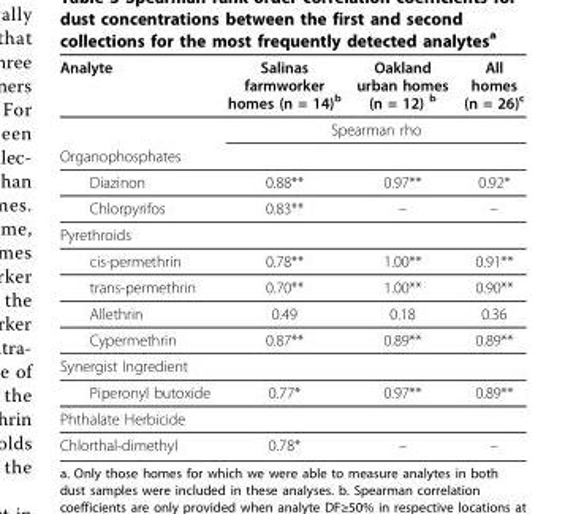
<table><thead><tr><td>Analyte</td><td>Salinas farmworker homes (n = 14)b</td><td>Oakland urban homes (n = 12) b</td><td>All homes (n = 26)c</td></tr></thead><tbody><tr><td></td><td colspan="3">Spearman rho</td></tr><tr><td colspan="4">Organophosphates</td></tr><tr><td>Diazinon</td><td>0.88**</td><td>0.97**</td><td>0.92*</td></tr><tr><td>Chlorpyrifos</td><td>0.83**</td><td>–</td><td>–</td></tr><tr><td colspan="4">Pyrethroids</td></tr><tr><td>cis-permethrin</td><td>0.78**</td><td>1.00**</td><td>0.91**</td></tr><tr><td>trans-permethrin</td><td>0.70**</td><td>1.00**</td><td>0.90**</td></tr><tr><td>Allethrin</td><td>0.49</td><td>0.18</td><td>0.36</td></tr><tr><td>Cypermethrin</td><td>0.87**</td><td>0.89**</td><td>0.89**</td></tr><tr><td colspan="4">Synergist Ingredient</td></tr><tr><td>Piperonyl butoxide</td><td>0.77*</td><td>0.97**</td><td>0.89**</td></tr><tr><td colspan="4">Phthalate Herbicide</td></tr><tr><td>Chlorthal-dimethyl</td><td>0.78*</td><td>–</td><td>–</td></tr></tbody></table>